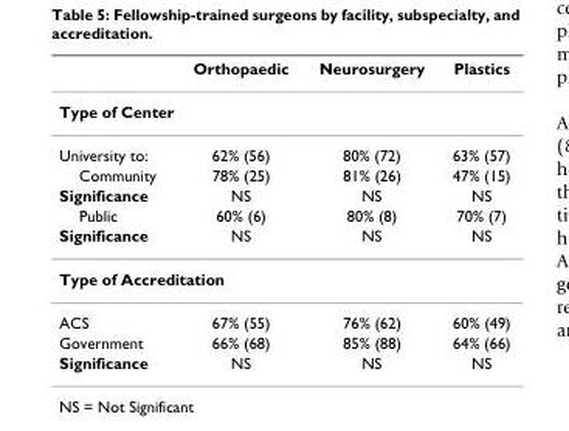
<table><thead><tr><td></td><td>Orthopaedic</td><td>Neurosurgery</td><td>Plastics</td></tr></thead><tbody><tr><td colspan="4">Type of Center</td></tr><tr><td>University to:</td><td>62% (56)</td><td>80% (72)</td><td>63% (57)</td></tr><tr><td>Community</td><td>78% (25)</td><td>81% (26)</td><td>47% (15)</td></tr><tr><td>Significance</td><td>NS</td><td>NS</td><td>NS</td></tr><tr><td>Public</td><td>60% (6)</td><td>80% (8)</td><td>70% (7)</td></tr><tr><td>Significance</td><td>NS</td><td>NS</td><td>NS</td></tr><tr><td colspan="4">Type of Accreditation</td></tr><tr><td>ACS</td><td>67% (55)</td><td>76% (62)</td><td>60% (49)</td></tr><tr><td>Government</td><td>66% (68)</td><td>85% (88)</td><td>64% (66)</td></tr><tr><td>Significance</td><td>NS</td><td>NS</td><td>NS</td></tr></tbody></table>